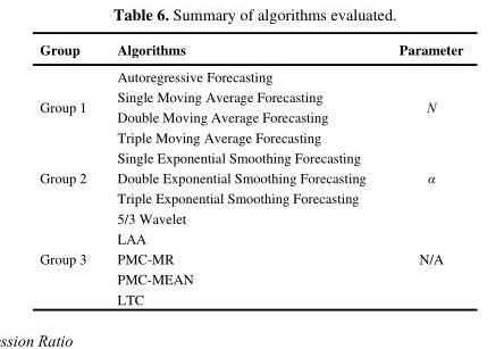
<table><thead><tr><td>Group</td><td>Algorithms</td><td>Parameter</td></tr></thead><tbody><tr><td rowspan="4">Group 1</td><td>Autoregressive Forecasting</td><td rowspan="4">N</td></tr><tr><td>Single Moving Average Forecasting</td></tr><tr><td>Double Moving Average Forecasting</td></tr><tr><td>Triple Moving Average Forecasting</td></tr><tr><td rowspan="3">Group 2</td><td>Single Exponential Smoothing Forecasting</td><td rowspan="3">α</td></tr><tr><td>Double Exponential Smoothing Forecasting</td></tr><tr><td>Triple Exponential Smoothing Forecasting</td></tr><tr><td rowspan="5">Group 3</td><td>5/3 Wavelet</td><td rowspan="5">N/A</td></tr><tr><td>LAA</td></tr><tr><td>PMC-MR</td></tr><tr><td>PMC-MEAN</td></tr><tr><td>LTC</td></tr></tbody></table>